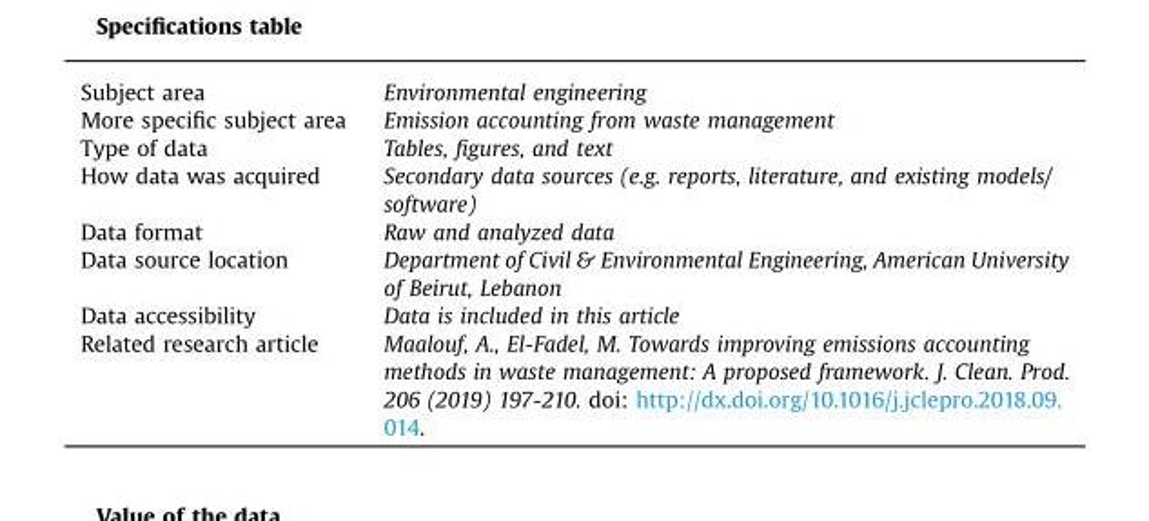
<table><tbody><tr><td>Subject area</td><td>Environmental engineering</td></tr><tr><td>More specific subject area</td><td>Emission accounting from waste management</td></tr><tr><td>Type of data</td><td>Tables, figures, and text</td></tr><tr><td>How data was acquired</td><td>Secondary data sources (e.g. reports, literature, and existing models/ software)</td></tr><tr><td>Data format</td><td>Raw and analyzed data</td></tr><tr><td>Data source location</td><td>Department of Civil &amp; Environmental Engineering, American University of Beirut, Lebanon</td></tr><tr><td>Data accessibility</td><td>Data is included in this article</td></tr><tr><td>Related research article</td><td>Maalouf, A., El-Fadel, M. Towards improving emissions accounting methods in waste management: A proposed framework. J. Clean. Prod. 206 (2019) 197-210. doi: http://dx.doi.org/10.1016/j.jclepro.2018.09. 014.</td></tr></tbody></table>